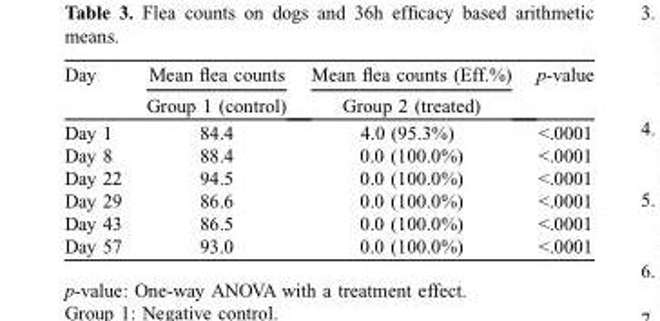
<table><thead><tr><td rowspan="2">Day</td><td rowspan="2">Mean flea counts Group 1 (control)</td><td rowspan="2">Mean flea counts (Eff.%) Group 2 (treated)</td><td rowspan="2">p-value</td></tr><tr></tr></thead><tbody><tr><td>Day 1</td><td>84.4</td><td>4.0 (95.3%)</td><td>&lt;.0001</td></tr><tr><td>Day 8</td><td>88.4</td><td>0.0 (100.0%)</td><td>&lt;.0001</td></tr><tr><td>Day 22</td><td>94.5</td><td>0.0 (100.0%)</td><td>&lt;.0001</td></tr><tr><td>Day 29</td><td>86.6</td><td>0.0 (100.0%)</td><td>&lt;.0001</td></tr><tr><td>Day 43</td><td>86.5</td><td>0.0 (100.0%)</td><td>&lt;.0001</td></tr><tr><td>Day 57</td><td>93.0</td><td>0.0 (100.0%)</td><td>&lt;.0001</td></tr></tbody></table>